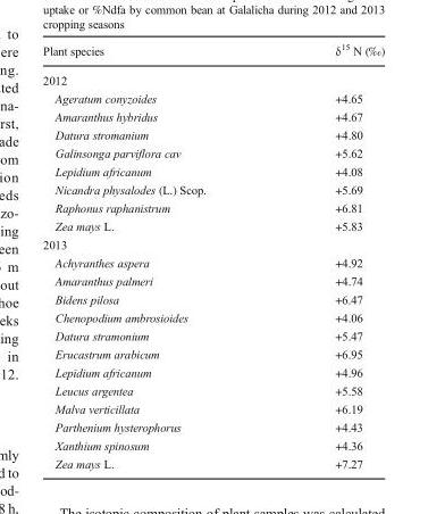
<table><thead><tr><td>Plant species</td><td>δ<sup>15</sup> N (‰)</td></tr></thead><tbody><tr><td colspan="2">2012</td></tr><tr><td>Ageratum conyzoides</td><td>+4.65</td></tr><tr><td>Amaranthus hybridus</td><td>+4.67</td></tr><tr><td>Datura stromanium</td><td>+4.80</td></tr><tr><td>Galinsonga parviflora cav</td><td>+5.62</td></tr><tr><td>Lepidium africanum</td><td>+4.08</td></tr><tr><td>Nicandra physalodes (L.) Scop.</td><td>+5.69</td></tr><tr><td>Raphonus raphanistrum</td><td>+6.81</td></tr><tr><td>Zea mays L.</td><td>+5.83</td></tr><tr><td colspan="2">2013</td></tr><tr><td>Achyranthes aspera</td><td>+4.92</td></tr><tr><td>Amaranthus palmeri</td><td>+4.74</td></tr><tr><td>Bidens pilosa</td><td>+6.47</td></tr><tr><td>Chenopodium ambrosioides</td><td>+4.06</td></tr><tr><td>Datura stramonium</td><td>+5.47</td></tr><tr><td>Erucastrum arabicum</td><td>+6.95</td></tr><tr><td>Lepidium africanum</td><td>+4.96</td></tr><tr><td>Leucus argentea</td><td>+5.58</td></tr><tr><td>Malva verticillata</td><td>+6.19</td></tr><tr><td>Parthenium hysterophorus</td><td>+4.43</td></tr><tr><td>Xanthium spinosum</td><td>+4.36</td></tr><tr><td>Zea mays L.</td><td>+7.27</td></tr></tbody></table>